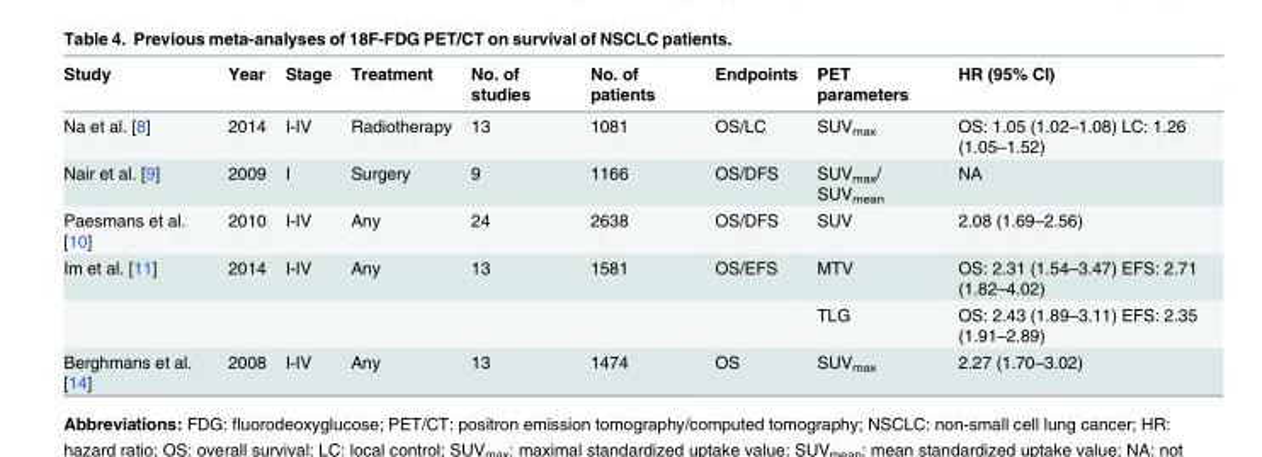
<table><thead><tr><td>Study</td><td>Year</td><td>Stage</td><td>Treatment</td><td>No. of studies</td><td>No. of patients</td><td>Endpoints</td><td>PET parameters</td><td>HR (95% CI)</td></tr></thead><tbody><tr><td>Na et al. [8]</td><td>2014</td><td>I-IV</td><td>Radiotherapy</td><td>13</td><td>1081</td><td>OS/LC</td><td>SUV<sub>max</sub></td><td>OS: 1.05 (1.02–1.08) LC: 1.26 (1.05–1.52)</td></tr><tr><td>Nair et al. [9]</td><td>2009</td><td>I</td><td>Surgery</td><td>9</td><td>1166</td><td>OS/DFS</td><td>SUV<sub>max</sub>/ SUV<sub>mean</sub></td><td>NA</td></tr><tr><td>Paesmans et al. [10]</td><td>2010</td><td>I-IV</td><td>Any</td><td>24</td><td>2638</td><td>OS/DFS</td><td>SUV</td><td>2.08 (1.69–2.56)</td></tr><tr><td rowspan="2">Im et al. [11]</td><td>2014</td><td>I-IV</td><td>Any</td><td>13</td><td>1581</td><td>OS/EFS</td><td>MTV</td><td>OS: 2.31 (1.54–3.47) EFS: 2.71 (1.82–4.02)</td></tr><tr><td></td><td></td><td></td><td></td><td></td><td></td><td>TLG</td><td>OS: 2.43 (1.89–3.11) EFS: 2.35 (1.91–2.89)</td></tr><tr><td>Berghmans et al. [14]</td><td>2008</td><td>I-IV</td><td>Any</td><td>13</td><td>1474</td><td>OS</td><td>SUV<sub>max</sub></td><td>2.27 (1.70–3.02)</td></tr></tbody></table>